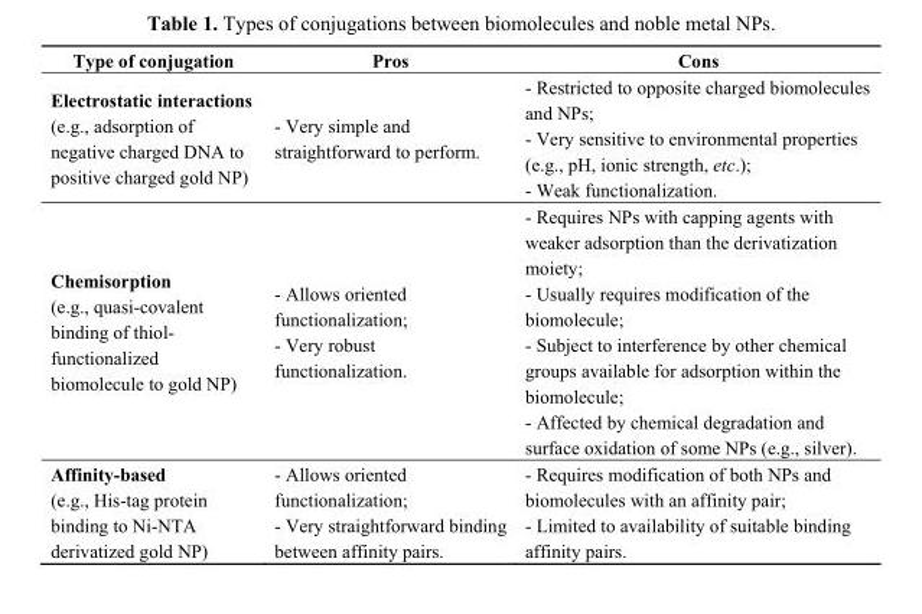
<table><thead><tr><td>Type of conjugation</td><td>Pros</td><td>Cons</td></tr></thead><tbody><tr><td>Electrostatic interactions (e.g., adsorption of negative charged DNA to positive charged gold NP)</td><td>- Very simple and straightforward to perform.</td><td>- Restricted to opposite charged biomolecules and NPs; - Very sensitive to environmental properties (e.g., pH, ionic strength, etc.); - Weak functionalization.</td></tr><tr><td>Chemisorption (e.g., quasi-covalent binding of thiol- functionalized biomolecule to gold NP)</td><td>- Allows oriented functionalization; - Very robust functionalization.</td><td>- Requires NPs with capping agents with weaker adsorption than the derivatization moiety; - Usually requires modification of the biomolecule; - Subject to interference by other chemical groups available for adsorption within the biomolecule; - Affected by chemical degradation and surface oxidation of some NPs (e.g., silver).</td></tr><tr><td>Affinity-based (e.g., His-tag protein binding to Ni-NTA derivatized gold NP)</td><td>- Allows oriented functionalization; - Very straightforward binding between affinity pairs.</td><td>- Requires modification of both NPs and biomolecules with an affinity pair; - Limited to availability of suitable binding affinity pairs.</td></tr></tbody></table>